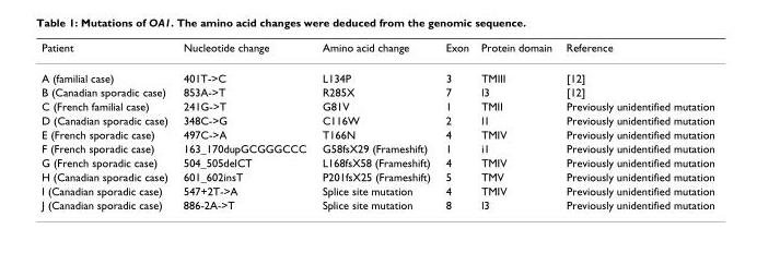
<table><thead><tr><td>Patient</td><td>Nucleotide change</td><td>Amino acid change</td><td>Exon</td><td>Protein domain</td><td>Reference</td></tr></thead><tbody><tr><td>A (familial case)</td><td>401T-&gt;C</td><td>L134P</td><td>3</td><td>TMIII</td><td>[12]</td></tr><tr><td>B (Canadian sporadic case)</td><td>853A-&gt;T</td><td>R285X</td><td>7</td><td>l3</td><td>[12]</td></tr><tr><td>C (French familial case)</td><td>241G-&gt;T</td><td>G81V</td><td>1</td><td>TMII</td><td>Previously unidentified mutation</td></tr><tr><td>D (Canadian sporadic case)</td><td>348C-&gt;G</td><td>C116W</td><td>2</td><td>l1</td><td>Previously unidentified mutation</td></tr><tr><td>E (French sporadic case)</td><td>497C-&gt;A</td><td>T166N</td><td>4</td><td>TMIV</td><td>Previously unidentified mutation</td></tr><tr><td>F (French sporadic case)</td><td>163_170dupGCGGGCCC</td><td>G58fsX29 (Frameshift)</td><td>1</td><td>i1</td><td>Previously unidentified mutation</td></tr><tr><td>G (French sporadic case)</td><td>504_505delCT</td><td>L168fsX58 (Frameshift)</td><td>4</td><td>TMIV</td><td>Previously unidentified mutation</td></tr><tr><td>H (Canadian sporadic case)</td><td>601_602insT</td><td>P201fsX25 (Frameshift)</td><td>5</td><td>TMV</td><td>Previously unidentified mutation</td></tr><tr><td>I (Canadian sporadic case)</td><td>547+2T-&gt;A</td><td>Splice site mutation</td><td>4</td><td>TMIV</td><td>Previously unidentified mutation</td></tr><tr><td>J (Canadian sporadic case)</td><td>886-2A-&gt;T</td><td>Splice site mutation</td><td>8</td><td>l3</td><td>Previously unidentified mutation</td></tr></tbody></table>